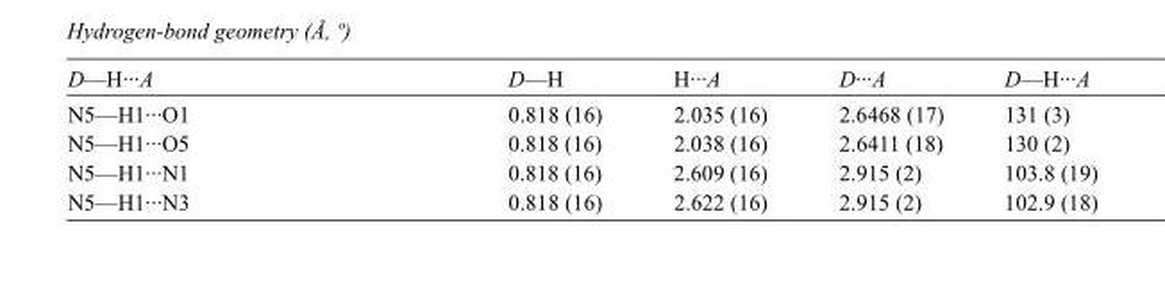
<table><tbody><tr><td>D—H···A</td><td>D—H</td><td>H···A</td><td>D···A</td><td>D—H···A</td></tr><tr><td>N5—H1···O1</td><td>0.818 (16)</td><td>2.035 (16)</td><td>2.6468 (17)</td><td>131 (3)</td></tr><tr><td>N5—H1···O5</td><td>0.818 (16)</td><td>2.038 (16)</td><td>2.6411 (18)</td><td>130 (2)</td></tr><tr><td>N5—H1···N1</td><td>0.818 (16)</td><td>2.609 (16)</td><td>2.915 (2)</td><td>103.8 (19)</td></tr><tr><td>N5—H1···N3</td><td>0.818 (16)</td><td>2.622 (16)</td><td>2.915 (2)</td><td>102.9 (18)</td></tr></tbody></table>